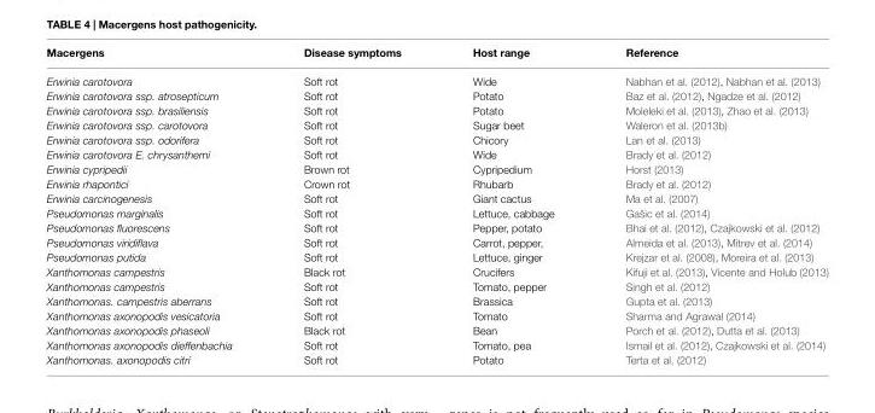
<table><thead><tr><td>Macergens</td><td>Disease symptoms</td><td>Host range</td><td>Reference</td></tr></thead><tbody><tr><td>Erwinia carotovora</td><td>Soft rot</td><td>Wide</td><td>Nabhan et al. (2012), Nabhan et al. (2013)</td></tr><tr><td>Erwinia carotovora ssp. atrosepticum</td><td>Soft rot</td><td>Potato</td><td>Baz et al. (2012), Ngadze et al. (2012)</td></tr><tr><td>Erwinia carotovora ssp. brasiliensis</td><td>Soft rot</td><td>Potato</td><td>Moleleki et al. (2013), Zhao et al. (2013)</td></tr><tr><td>Erwinia carotovora ssp. carotovora</td><td>Soft rot</td><td>Sugar beet</td><td>Waleron et al. (2013b)</td></tr><tr><td>Erwinia carotovora ssp. odorifera</td><td>Soft rot</td><td>Chicory</td><td>Lan et al. (2013)</td></tr><tr><td>Erwinia carotovora E. chrysanthemi</td><td>Soft rot</td><td>Wide</td><td>Brady et al. (2012)</td></tr><tr><td>Erwinia cypripedii</td><td>Brown rot</td><td>Cypripedium</td><td>Horst (2013)</td></tr><tr><td>Erwinia rhapontici</td><td>Crown rot</td><td>Rhubarb</td><td>Brady et al. (2012)</td></tr><tr><td>Erwinia carcinogenesis</td><td>Soft rot</td><td>Giant cactus</td><td>Ma et al. (2007)</td></tr><tr><td>Pseudomonas marginalis</td><td>Soft rot</td><td>Lettuce, cabbage</td><td>Gašic et al. (2014)</td></tr><tr><td>Pseudomonas fluorescens</td><td>Soft rot</td><td>Pepper, potato</td><td>Bhai et al. (2012), Czajkowski et al. (2012)</td></tr><tr><td>Pseudomonas viridiflava</td><td>Soft rot</td><td>Carrot, pepper,</td><td>Almeida et al. (2013), Mitrev et al. (2014)</td></tr><tr><td>Pseudomonas putida</td><td>Soft rot</td><td>Lettuce, ginger</td><td>Krejzar et al. (2008), Moreira et al. (2013)</td></tr><tr><td>Xanthomonas campestris</td><td>Black rot</td><td>Crucifers</td><td>Kifuji et al. (2013), Vicente and Holub (2013)</td></tr><tr><td>Xanthomonas campestris</td><td>Soft rot</td><td>Tomato, pepper</td><td>Singh et al. (2012)</td></tr><tr><td>Xanthomonas. campestris aberrans</td><td>Soft rot</td><td>Brassica</td><td>Gupta et al. (2013)</td></tr><tr><td>Xanthomonas axonopodis vesicatoria</td><td>Soft rot</td><td>Tomato</td><td>Sharma and Agrawal (2014)</td></tr><tr><td>Xanthomonas axonopodis phaseoli</td><td>Black rot</td><td>Bean</td><td>Porch et al. (2012), Dutta et al. (2013)</td></tr><tr><td>Xanthomonas axonopodis dieffenbachia</td><td>Soft rot</td><td>Tomato, pea</td><td>Ismail et al. (2012), Czajkowski et al. (2014)</td></tr><tr><td>Xanthomonas. axonopodis citri</td><td>Soft rot</td><td>Potato</td><td>Terta et al. (2012)</td></tr></tbody></table>